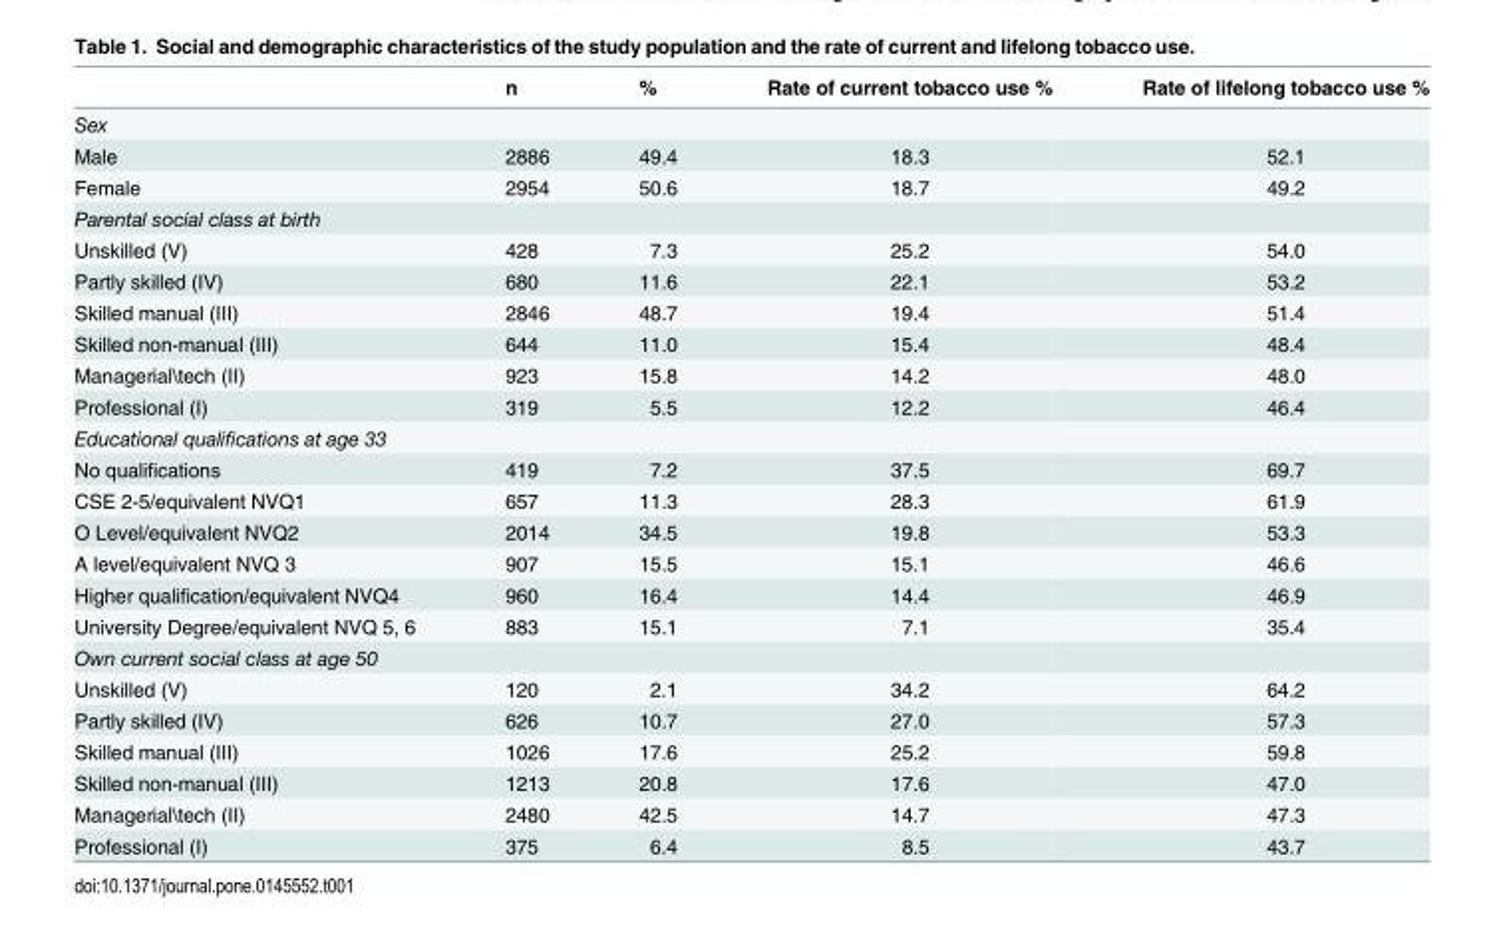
<table><thead><tr><td></td><td>n</td><td>%</td><td>Rate of current tobacco use %</td><td>Rate of lifelong tobacco use %</td></tr></thead><tbody><tr><td colspan="5">Sex</td></tr><tr><td>Male</td><td>2886</td><td>49.4</td><td>18.3</td><td>52.1</td></tr><tr><td>Female</td><td>2954</td><td>50.6</td><td>18.7</td><td>49.2</td></tr><tr><td colspan="5">Parental social class at birth</td></tr><tr><td>Unskilled (V)</td><td>428</td><td>7.3</td><td>25.2</td><td>54.0</td></tr><tr><td>Partly skilled (IV)</td><td>680</td><td>11.6</td><td>22.1</td><td>53.2</td></tr><tr><td>Skilled manual (III)</td><td>2846</td><td>48.7</td><td>19.4</td><td>51.4</td></tr><tr><td>Skilled non-manual (III)</td><td>644</td><td>11.0</td><td>15.4</td><td>48.4</td></tr><tr><td>Managerial\tech (II)</td><td>923</td><td>15.8</td><td>14.2</td><td>48.0</td></tr><tr><td>Professional (I)</td><td>319</td><td>5.5</td><td>12.2</td><td>46.4</td></tr><tr><td colspan="5">Educational qualifications at age 33</td></tr><tr><td>No qualifications</td><td>419</td><td>7.2</td><td>37.5</td><td>69.7</td></tr><tr><td>CSE 2-5/equivalent NVQ1</td><td>657</td><td>11.3</td><td>28.3</td><td>61.9</td></tr><tr><td>O Level/equivalent NVQ2</td><td>2014</td><td>34.5</td><td>19.8</td><td>53.3</td></tr><tr><td>A level/equivalent NVQ 3</td><td>907</td><td>15.5</td><td>15.1</td><td>46.6</td></tr><tr><td>Higher qualification/equivalent NVQ4</td><td>960</td><td>16.4</td><td>14.4</td><td>46.9</td></tr><tr><td>University Degree/equivalent NVQ 5, 6</td><td>883</td><td>15.1</td><td>7.1</td><td>35.4</td></tr><tr><td colspan="5">Own current social class at age 50</td></tr><tr><td>Unskilled (V)</td><td>120</td><td>2.1</td><td>34.2</td><td>64.2</td></tr><tr><td>Partly skilled (IV)</td><td>626</td><td>10.7</td><td>27.0</td><td>57.3</td></tr><tr><td>Skilled manual (III)</td><td>1026</td><td>17.6</td><td>25.2</td><td>59.8</td></tr><tr><td>Skilled non-manual (III)</td><td>1213</td><td>20.8</td><td>17.6</td><td>47.0</td></tr><tr><td>Managerial\tech (II)</td><td>2480</td><td>42.5</td><td>14.7</td><td>47.3</td></tr><tr><td>Professional (I)</td><td>375</td><td>6.4</td><td>8.5</td><td>43.7</td></tr></tbody></table>